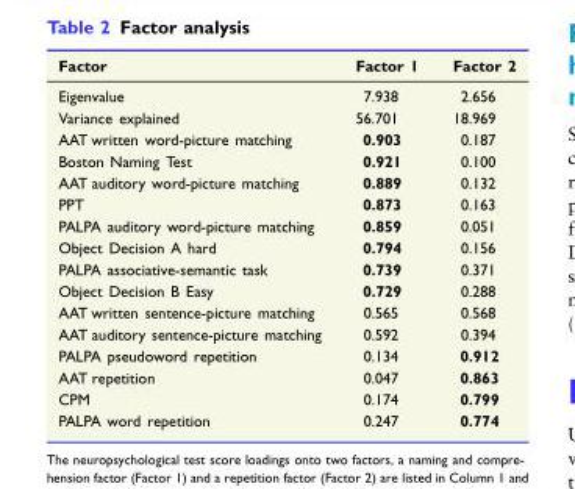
<table><thead><tr><td>Factor</td><td>Factor 1</td><td>Factor 2</td></tr></thead><tbody><tr><td>Eigenvalue</td><td>7.938</td><td>2.656</td></tr><tr><td>Variance explained</td><td>56.701</td><td>18.969</td></tr><tr><td>AAT written word-picture matching</td><td>0.903</td><td>0.187</td></tr><tr><td>Boston Naming Test</td><td>0.921</td><td>0.100</td></tr><tr><td>AAT auditory word-picture matching</td><td>0.889</td><td>0.132</td></tr><tr><td>PPT</td><td>0.873</td><td>0.163</td></tr><tr><td>PALPA auditory word-picture matching</td><td>0.859</td><td>0.051</td></tr><tr><td>Object Decision A hard</td><td>0.794</td><td>0.156</td></tr><tr><td>PALPA associative-semantic task</td><td>0.739</td><td>0.371</td></tr><tr><td>Object Decision B Easy</td><td>0.729</td><td>0.288</td></tr><tr><td>AAT written sentence-picture matching</td><td>0.565</td><td>0.568</td></tr><tr><td>AAT auditory sentence-picture matching</td><td>0.592</td><td>0.394</td></tr><tr><td>PALPA pseudoword repetition</td><td>0.134</td><td>0.912</td></tr><tr><td>AAT repetition</td><td>0.047</td><td>0.863</td></tr><tr><td>CPM</td><td>0.174</td><td>0.799</td></tr><tr><td>PALPA word repetition</td><td>0.247</td><td>0.774</td></tr></tbody></table>